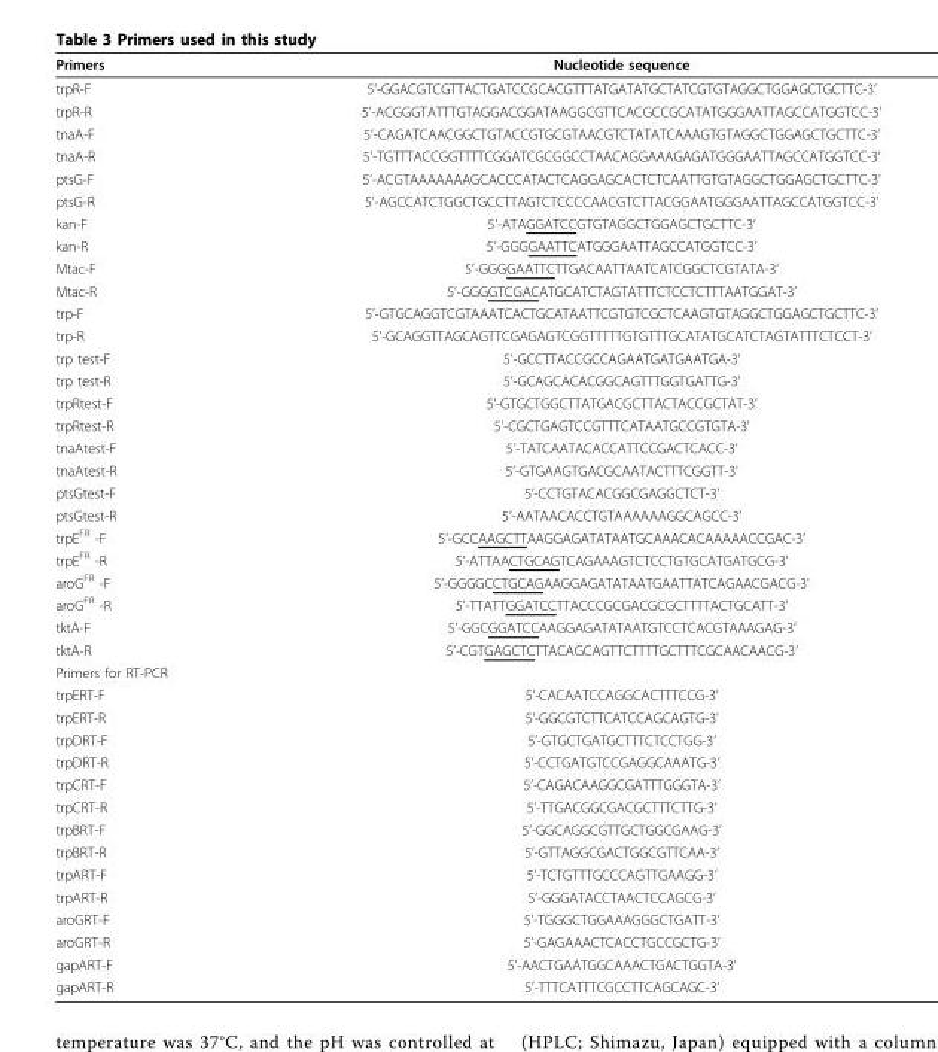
<table><thead><tr><td>Primers</td><td>Nucleotide sequence</td></tr></thead><tbody><tr><td>trpR-F</td><td>5’-GGACGTCGTTACTGATCCGCACGTTTATGATATGCTATCGTGTAGGCTGGAGCTGCTTC-3’</td></tr><tr><td>trpR-R</td><td>5’-ACGGGTATTTGTAGGACGGATAAGGCGTTCACGCCGCATATGGGAATTAGCCATGGTCC-3’</td></tr><tr><td>tnaA-F</td><td>5’-CAGATCAACGGCTGTACCGTGCGTAACGTCTATATCAAAGTGTAGGCTGGAGCTGCTTC-3’</td></tr><tr><td>tnaA-R</td><td>5’-TGTTTACCGGTTTTCGGATCGCGGCCTAACAGGAAAGAGATGGGAATTAGCCATGGTCC-3’</td></tr><tr><td>ptsG-F</td><td>5’-ACGTAAAAAAAGCACCCATACTCAGGAGCACTCTCAATTGTGTAGGCTGGAGCTGCTTC-3’</td></tr><tr><td>ptsG-R</td><td>5’-AGCCATCTGGCTGCCTTAGTCTCCCCAACGTCTTACGGAATGGGAATTAGCCATGGTCC-3’</td></tr><tr><td>kan-F</td><td>5’-ATAGGATCCGTGTAGGCTGGAGCTGCTTC-3’</td></tr><tr><td>kan-R</td><td>5’-GGGGAATTCATGGGAATTAGCCATGGTCC-3’</td></tr><tr><td>Mtac-F</td><td>5’-GGGGAATTCTTGACAATTAATCATCGGCTCGTATA-3’</td></tr><tr><td>Mtac-R</td><td>5’-GGGGTCGACATGCATCTAGTATTTCTCCTCTTTAATGGAT-3’</td></tr><tr><td>trp-F</td><td>5’-GTGCAGGTCGTAAATCACTGCATAATTCGTGTCGCTCAAGTGTAGGCTGGAGCTGCTTC-3’</td></tr><tr><td>trp-R</td><td>5’-GCAGGTTAGCAGTTCGAGAGTCGGTTTTTGTGTTTGCATATGCATCTAGTATTTCTCCT-3’</td></tr><tr><td>trp test-F</td><td>5’-GCCTTACCGCCAGAATGATGAATGA-3’</td></tr><tr><td>trp test-R</td><td>5’-GCAGCACACGGCAGTTTGGTGATTG-3’</td></tr><tr><td>trpRtest-F</td><td>5’-GTGCTGGCTTATGACGCTTACTACCGCTAT-3’</td></tr><tr><td>trpRtest-R</td><td>5’-CGCTGAGTCCGTTTCATAATGCCGTGTA-3’</td></tr><tr><td>tnaAtest-F</td><td>5’-TATCAATACACCATTCCGACTCACC-3’</td></tr><tr><td>tnaAtest-R</td><td>5’-GTGAAGTGACGCAATACTTTCGGTT-3’</td></tr><tr><td>ptsGtest-F</td><td>5’-CCTGTACACGGCGAGGCTCT-3’</td></tr><tr><td>ptsGtest-R</td><td>5’-AATAACACCTGTAAAAAAGGCAGCC-3’</td></tr><tr><td>trpE<sup>FR</sup> -F</td><td>5’-GCCAAGCTTAAGGAGATATAATGCAAACACAAAAACCGAC-3’</td></tr><tr><td>trpE<sup>FR</sup> -R</td><td>5’-ATTAACTGCAGTCAGAAAGTCTCCTGTGCATGATGCG-3’</td></tr><tr><td>aroG<sup>FR</sup> -F</td><td>5’-GGGGCCTGCAGAAGGAGATATAATGAATTATCAGAACGACG-3’</td></tr><tr><td>aroG<sup>FR</sup> -R</td><td>5’-TTATTGGATCCTTACCCGCGACGCGCTTTTACTGCATT-3’</td></tr><tr><td>tktA-F</td><td>5’-GGCGGATCCAAGGAGATATAATGTCCTCACGTAAAGAG-3’</td></tr><tr><td>tktA-R</td><td>5’-CGTGAGCTCTTACAGCAGTTCTTTTGCTTTCGCAACAACG-3’</td></tr><tr><td colspan="2">Primers for RT-PCR</td></tr><tr><td>trpERT-F</td><td>5’-CACAATCCAGGCACTTTCCG-3’</td></tr><tr><td>trpERT-R</td><td>5’-GGCGTCTTCATCCAGCAGTG-3’</td></tr><tr><td>trpDRT-F</td><td>5’-GTGCTGATGCTTTCTCCTGG-3’</td></tr><tr><td>trpDRT-R</td><td>5’-CCTGATGTCCGAGGCAAATG-3’</td></tr><tr><td>trpCRT-F</td><td>5’-CAGACAAGGCGATTTGGGTA-3’</td></tr><tr><td>trpCRT-R</td><td>5’-TTGACGGCGACGCTTTCTTG-3’</td></tr><tr><td>trpBRT-F</td><td>5’-GGCAGGCGTTGCTGGCGAAG-3’</td></tr><tr><td>trpBRT-R</td><td>5’-GTTAGGCGACTGGCGTTCAA-3’</td></tr><tr><td>trpART-F</td><td>5’-TCTGTTTGCCCAGTTGAAGG-3’</td></tr><tr><td>trpART-R</td><td>5’-GGGATACCTAACTCCAGCG-3’</td></tr><tr><td>aroGRT-F</td><td>5’-TGGGCTGGAAAGGGCTGATT-3’</td></tr><tr><td>aroGRT-R</td><td>5’-GAGAAACTCACCTGCCGCTG-3’</td></tr><tr><td>gapART-F</td><td>5’-AACTGAATGGCAAACTGACTGGTA-3’</td></tr><tr><td>gapART-R</td><td>5’-TTTCATTTCGCCTTCAGCAGC-3’</td></tr></tbody></table>